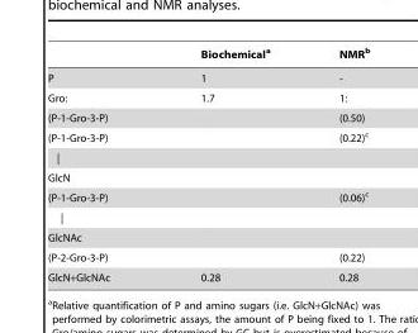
<table><thead><tr><td></td><td>Biochemical<sup>a</sup></td><td>NMR<sup>b</sup></td></tr></thead><tbody><tr><td>P</td><td>1</td><td>-</td></tr><tr><td>Gro:</td><td>1.7</td><td>1:</td></tr><tr><td>(P-1-Gro-3-P)</td><td></td><td>(0.50)</td></tr><tr><td>(P-1-Gro-3-P)</td><td></td><td>(0.22)<sup>c</sup></td></tr><tr><td colspan="3">|</td></tr><tr><td colspan="3">GlcN</td></tr><tr><td>(P-1-Gro-3-P)</td><td></td><td>(0.06)<sup>c</sup></td></tr><tr><td colspan="3">|</td></tr><tr><td colspan="3">GlcNAc</td></tr><tr><td>(P-2-Gro-3-P)</td><td></td><td>(0.22)</td></tr><tr><td>GlcN+GlcNAc</td><td>0.28</td><td>0.28</td></tr></tbody></table>